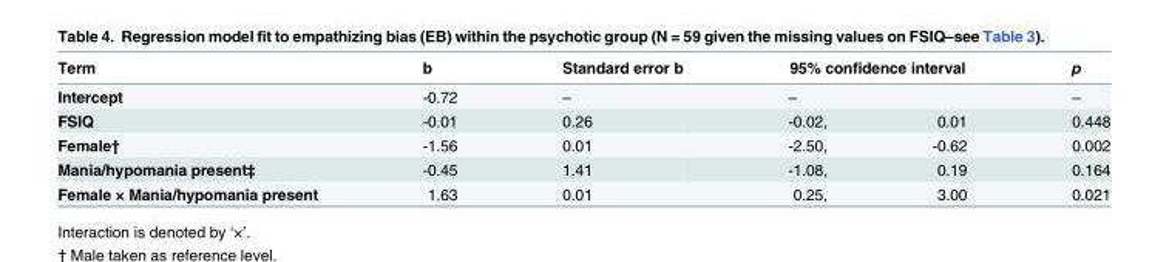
<table><thead><tr><td rowspan="2">Term Intercept</td><td rowspan="2">b -0.72</td><td rowspan="2">Standard error b –</td><td colspan="2">95% confidence interval</td><td rowspan="2">p –</td></tr><tr><td>–</td><td></td></tr></thead><tbody><tr><td>FSIQ</td><td>-0.01</td><td>0.26</td><td>-0.02,</td><td>0.01</td><td>0.448</td></tr><tr><td>Female†</td><td>-1.56</td><td>0.01</td><td>-2.50,</td><td>-0.62</td><td>0.002</td></tr><tr><td>Mania/hypomania present‡</td><td>-0.45</td><td>1.41</td><td>-1.08,</td><td>0.19</td><td>0.164</td></tr><tr><td>Female × Mania/hypomania present</td><td>1.63</td><td>0.01</td><td>0.25,</td><td>3.00</td><td>0.021</td></tr></tbody></table>